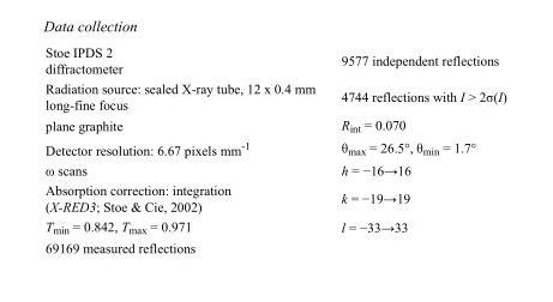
<table><tbody><tr><td>Stoe IPDS 2 diffractometer</td><td>9577 independent reflections</td></tr><tr><td>Radiation source: sealed X-ray tube, 12 x 0.4 mm long-fine focus</td><td>4744 reflections with I &gt; 2σ(I)</td></tr><tr><td>plane graphite</td><td>R<sub>int</sub> = 0.070</td></tr><tr><td>Detector resolution: 6.67 pixels mm<sup>-1</sup></td><td>θ<sub>max</sub> = 26.5°, θ<sub>min</sub> = 1.7°</td></tr><tr><td>ω scans</td><td>h = −16→16</td></tr><tr><td>Absorption correction: integration (X-RED3; Stoe &amp; Cie, 2002)</td><td>k = −19→19</td></tr><tr><td>T<sub>min</sub> = 0.842, T<sub>max</sub> = 0.971</td><td>l = −33→33</td></tr><tr><td>69169 measured reflections</td><td></td></tr></tbody></table>